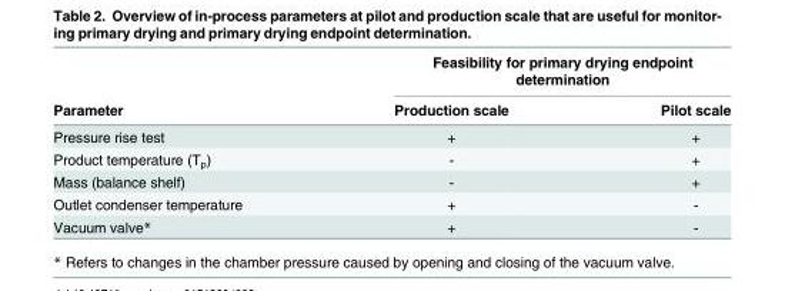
<table><thead><tr><td rowspan="2">Parameter</td><td colspan="2">Feasibility for primary drying endpoint determination</td></tr><tr><td>Production scale</td><td>Pilot scale</td></tr></thead><tbody><tr><td>Pressure rise test</td><td>+</td><td>+</td></tr><tr><td>Product temperature (T<sub>p</sub>)</td><td>-</td><td>+</td></tr><tr><td>Mass (balance shelf)</td><td>-</td><td>+</td></tr><tr><td>Outlet condenser temperature</td><td>+</td><td>-</td></tr><tr><td>Vacuum valve*</td><td>+</td><td>-</td></tr></tbody></table>